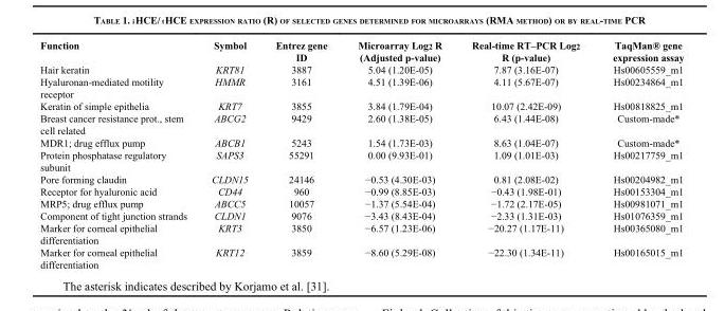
<table><thead><tr><td>Function</td><td>Symbol</td><td>Entrez gene ID</td><td>Microarray Log<sub>2</sub> R (Adjusted p-value)</td><td>Real-time RT–PCR Log<sub>2</sub> R (p-value)</td><td>TaqMan® gene expression assay</td></tr></thead><tbody><tr><td>Hair keratin</td><td>KRT81</td><td>3887</td><td>5.04 (1.20E-05)</td><td>7.87 (3.16E-07)</td><td>Hs00605559_m1</td></tr><tr><td>Hyaluronan-mediated motility receptor</td><td>HMMR</td><td>3161</td><td>4.51 (1.39E-06)</td><td>4.11 (5.67E-07)</td><td>Hs00234864_m1</td></tr><tr><td>Keratin of simple epithelia</td><td>KRT7</td><td>3855</td><td>3.84 (1.79E-04)</td><td>10.07 (2.42E-09)</td><td>Hs00818825_m1</td></tr><tr><td>Breast cancer resistance prot., stem cell related</td><td>ABCG2</td><td>9429</td><td>2.60 (1.38E-05)</td><td>6.43 (1.44E-08)</td><td>Custom-made*</td></tr><tr><td>MDR1; drug efflux pump</td><td>ABCB1</td><td>5243</td><td>1.54 (1.73E-03)</td><td>8.63 (1.04E-07)</td><td>Custom-made*</td></tr><tr><td>Protein phosphatase regulatory subunit</td><td>SAPS3</td><td>55291</td><td>0.00 (9.93E-01)</td><td>1.09 (1.01E-03)</td><td>Hs00217759_m1</td></tr><tr><td>Pore forming claudin</td><td>CLDN15</td><td>24146</td><td>−0.53 (4.30E-03)</td><td>0.81 (2.08E-02)</td><td>Hs00204982_m1</td></tr><tr><td>Receptor for hyaluronic acid</td><td>CD44</td><td>960</td><td>−0.99 (8.85E-03)</td><td>−0.43 (1.98E-01)</td><td>Hs00153304_m1</td></tr><tr><td>MRP5; drug efflux pump</td><td>ABCC5</td><td>10057</td><td>−1.37 (5.54E-04)</td><td>−1.72 (2.17E-05)</td><td>Hs00981071_m1</td></tr><tr><td>Component of tight junction strands</td><td>CLDN1</td><td>9076</td><td>−3.43 (8.43E-04)</td><td>−2.33 (1.31E-03)</td><td>Hs01076359_m1</td></tr><tr><td>Marker for corneal epithelial differentiation</td><td>KRT3</td><td>3850</td><td>−6.57 (1.23E-06)</td><td>−20.27 (1.17E-11)</td><td>Hs00365080_m1</td></tr><tr><td>Marker for corneal epithelial differentiation</td><td>KRT12</td><td>3859</td><td>−8.60 (5.29E-08)</td><td>−22.30 (1.34E-11)</td><td>Hs00165015_m1</td></tr></tbody></table>